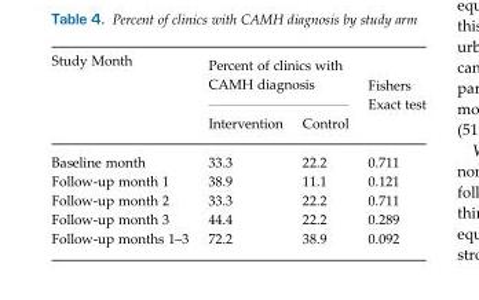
<table><thead><tr><td rowspan="2">Study Month</td><td colspan="2">Percent of clinics with CAMH diagnosis</td><td rowspan="2">Fishers Exact test</td></tr><tr><td>Intervention</td><td>Control</td></tr></thead><tbody><tr><td>Baseline month</td><td>33.3</td><td>22.2</td><td>0.711</td></tr><tr><td>Follow-up month 1</td><td>38.9</td><td>11.1</td><td>0.121</td></tr><tr><td>Follow-up month 2</td><td>33.3</td><td>22.2</td><td>0.711</td></tr><tr><td>Follow-up month 3</td><td>44.4</td><td>22.2</td><td>0.289</td></tr><tr><td>Follow-up months 1–3</td><td>72.2</td><td>38.9</td><td>0.092</td></tr></tbody></table>